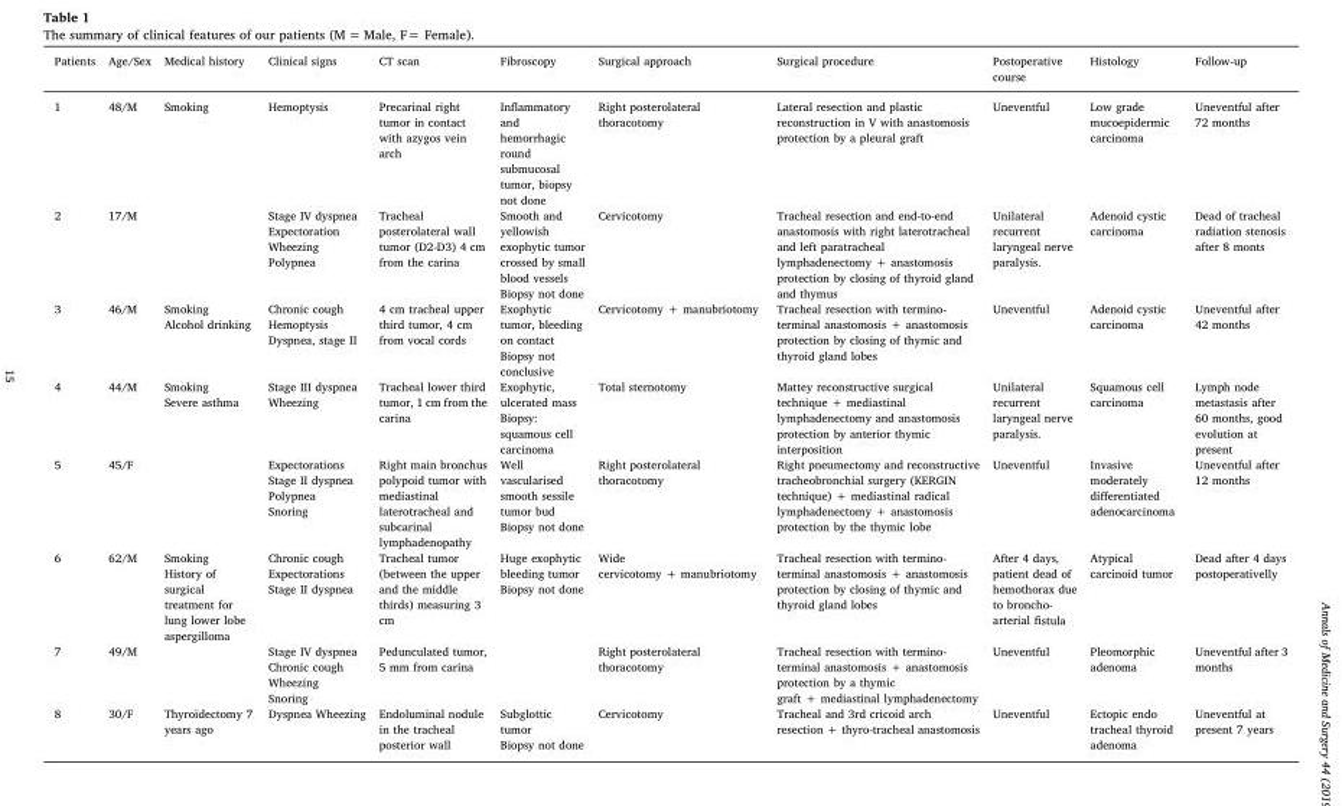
<table><thead><tr><td>Patients</td><td>Age/Sex</td><td>Medical history</td><td>Clinical signs</td><td>CT scan</td><td>Fibroscopy</td><td>Surgical approach</td><td>Surgical procedure</td><td>Postoperative course</td><td>Histology</td><td>Follow-up</td></tr></thead><tbody><tr><td>1</td><td>48/M</td><td>Smoking</td><td>Hemoptysis</td><td>Precarinal right tumor in contact with azygos vein arch</td><td>Inflammatory and hemorrhagic round submucosal tumor, biopsy not done</td><td>Right posterolateral thoracotomy</td><td>Lateral resection and plastic reconstruction in V with anastomosis protection by a pleural graft</td><td>Uneventful</td><td>Low grade mucoepidermic carcinoma</td><td>Uneventful after 72 months</td></tr><tr><td>2</td><td>17/M</td><td></td><td>Stage IV dyspnea Expectoration Wheezing Polypnea</td><td>Tracheal posterolateral wall tumor (D2-D3) 4 cm from the carina</td><td>Smooth and yellowish exophytic tumor crossed by small blood vessels Biopsy not done</td><td>Cervicotomy</td><td>Tracheal resection and end-to-end anastomosis with right laterotracheal and left paratracheal lymphadenectomy + anastomosis protection by closing of thyroid gland and thymus</td><td>Unilateral recurrent laryngeal nerve paralysis.</td><td>Adenoid cystic carcinoma</td><td>Dead of tracheal radiation stenosis after 8 monts</td></tr><tr><td>3</td><td>46/M</td><td>Smoking Alcohol drinking</td><td>Chronic cough Hemoptysis Dyspnea, stage II</td><td>4 cm tracheal upper third tumor, 4 cm from vocal cords</td><td>Exophytic tumor, bleeding on contact Biopsy not conclusive</td><td>Cervicotomy + manubriotomy</td><td>Tracheal resection with termino- terminal anastomosis + anastomosis protection by closing of thymic and thyroid gland lobes</td><td>Uneventful</td><td>Adenoid cystic carcinoma</td><td>Uneventful after 42 months</td></tr><tr><td>4</td><td>44/M</td><td>Smoking Severe asthma</td><td>Stage III dyspnea Wheezing</td><td>Tracheal lower third tumor, 1 cm from the carina</td><td>Exophytic, ulcerated mass Biopsy: squamous cell carcinoma</td><td>Total sternotomy</td><td>Mattey reconstructive surgical technique + mediastinal lymphadenectomy and anastomosis protection by anterior thymic interposition</td><td>Unilateral recurrent laryngeal nerve paralysis.</td><td>Squamous cell carcinoma</td><td>Lymph node metastasis after 60 months, good evolution at present</td></tr><tr><td>5</td><td>45/F</td><td></td><td>Expectorations Stage II dyspnea Polypnea Snoring</td><td>Right main bronchus polypoid tumor with mediastinal laterotracheal and subcarinal lymphadenopathy</td><td>Well vascularised smooth sessile tumor bud Biopsy not done</td><td>Right posterolateral thoracotomy</td><td>Right pneumectomy and reconstructive tracheobronchial surgery (KERGIN technique) + mediastinal radical lymphadenectomy + anastomosis protection by the thymic lobe</td><td>Uneventful</td><td>Invasive moderately differentiated adenocarcinoma</td><td>Uneventful after 12 months</td></tr><tr><td>6</td><td>62/M</td><td>Smoking History of surgical treatment for lung lower lobe aspergilloma</td><td>Chronic cough Expectorations Stage II dyspnea</td><td>Tracheal tumor (between the upper and the middle thirds) measuring 3 cm</td><td>Huge exophytic bleeding tumor Biopsy not done</td><td>Wide cervicotomy + manubriotomy</td><td>Tracheal resection with termino- terminal anastomosis + anastomosis protection by closing of thymic and thyroid gland lobes</td><td>After 4 days, patient dead of hemothorax due to broncho- arterial fistula</td><td>Atypical carcinoid tumor</td><td>Dead after 4 days postoperativelly</td></tr><tr><td>7</td><td>49/M</td><td></td><td>Stage IV dyspnea Chronic cough Wheezing Snoring</td><td>Pedunculated tumor, 5 mm from carina</td><td></td><td>Right posterolateral thoracotomy</td><td>Tracheal resection with termino- terminal anastomosis + anastomosis protection by a thymic graft + mediastinal lymphadenectomy</td><td>Uneventful</td><td>Pleomorphic adenoma</td><td>Uneventful after 3 months</td></tr><tr><td>8</td><td>30/F</td><td>Thyroïdectomy 7 years ago</td><td>Dyspnea Wheezing</td><td>Endoluminal nodule in the tracheal posterior wall</td><td>Subglottic tumor Biopsy not done</td><td>Cervicotomy</td><td>Tracheal and 3rd cricoid arch resection + thyro-tracheal anastomosis</td><td>Uneventful</td><td>Ectopic endo tracheal thyroid adenoma</td><td>Uneventful at present 7 years</td></tr></tbody></table>